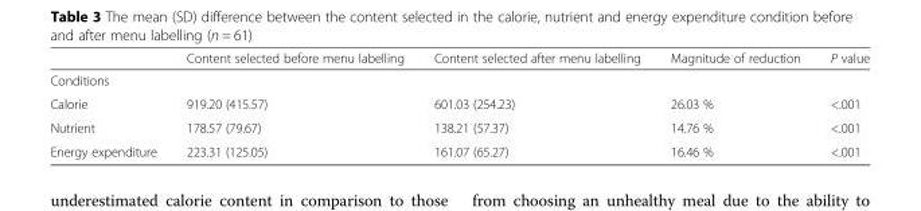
<table><thead><tr><td></td><td>Content selected before menu labelling</td><td>Content selected after menu labelling</td><td>Magnitude of reduction</td><td>P value</td></tr></thead><tbody><tr><td colspan="5">Conditions</td></tr><tr><td>Calorie</td><td>919.20 (415.57)</td><td>601.03 (254.23)</td><td>26.03 %</td><td>&lt;.001</td></tr><tr><td>Nutrient</td><td>178.57 (79.67)</td><td>138.21 (57.37)</td><td>14.76 %</td><td>&lt;.001</td></tr><tr><td>Energy expenditure</td><td>223.31 (125.05)</td><td>161.07 (65.27)</td><td>16.46 %</td><td>&lt;.001</td></tr></tbody></table>